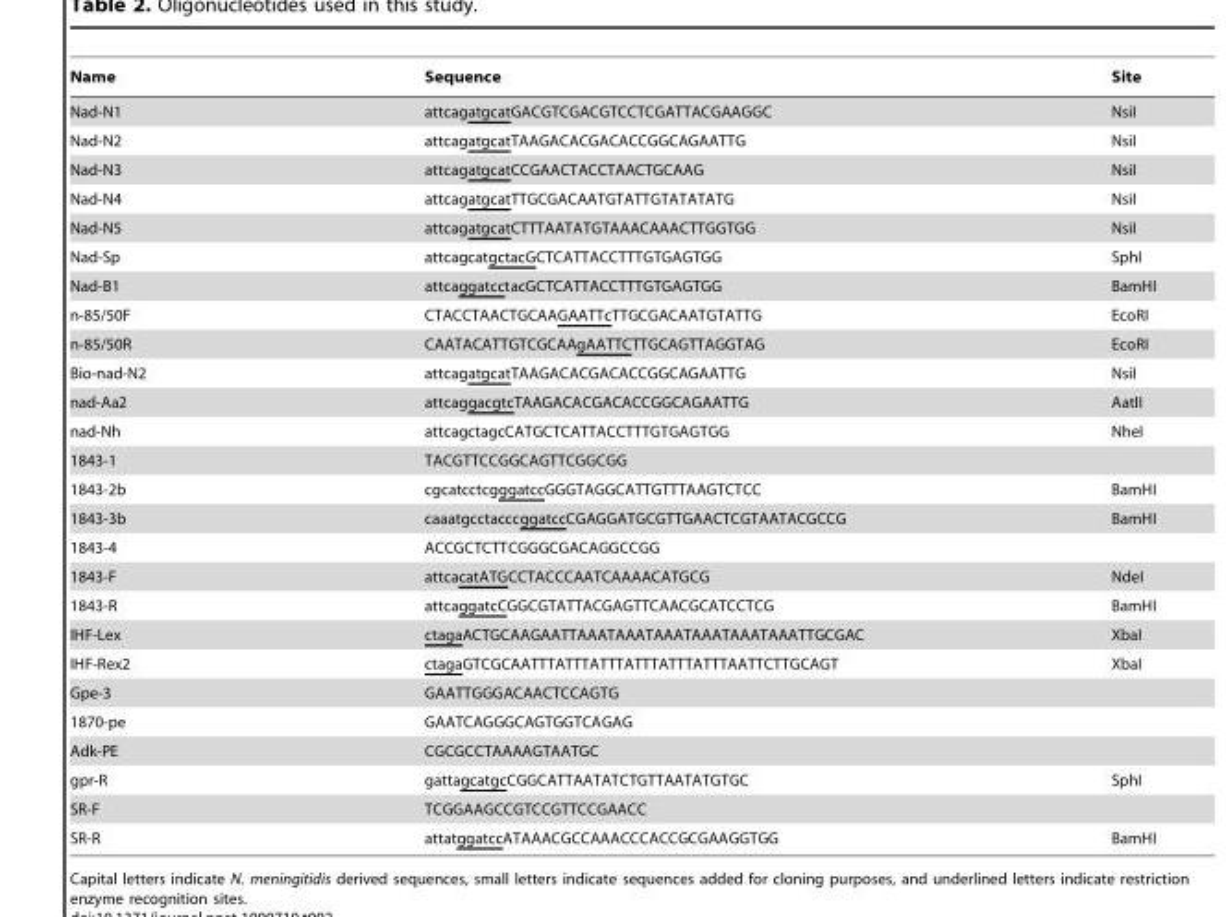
<table><thead><tr><td>Name</td><td>Sequence</td><td>Site</td></tr></thead><tbody><tr><td>Nad-N1</td><td>attcagatgcatGACGTCGACGTCCTCGATTACGAAGGC</td><td>NsiI</td></tr><tr><td>Nad-N2</td><td>attcagatgcatTAAGACACGACACCGGCAGAATTG</td><td>NsiI</td></tr><tr><td>Nad-N3</td><td>attcagatgcatCCGAACTACCTAACTGCAAG</td><td>NsiI</td></tr><tr><td>Nad-N4</td><td>attcagatgcatTTGCGACAATGTATTGTATATATG</td><td>NsiI</td></tr><tr><td>Nad-N5</td><td>attcagatgcatCTTTAATATGTAAACAAACTTGGTGG</td><td>NsiI</td></tr><tr><td>Nad-Sp</td><td>attcagcatgctacGCTCATTACCTTTGTGAGTGG</td><td>SphI</td></tr><tr><td>Nad-B1</td><td>attcaggatcctacGCTCATTACCTTTGTGAGTGG</td><td>BamHI</td></tr><tr><td>n-85/50F</td><td>CTACCTAACTGCAAGAATTcTTGCGACAATGTATTG</td><td>EcoRI</td></tr><tr><td>n-85/50R</td><td>CAATACATTGTCGCAAgAATTCTTGCAGTTAGGTAG</td><td>EcoRI</td></tr><tr><td>Bio-nad-N2</td><td>attcagatgcatTAAGACACGACACCGGCAGAATTG</td><td>NsiI</td></tr><tr><td>nad-Aa2</td><td>attcaggacgtcTAAGACACGACACCGGCAGAATTG</td><td>AatII</td></tr><tr><td>nad-Nh</td><td>attcagctagcCATGCTCATTACCTTTGTGAGTGG</td><td>NheI</td></tr><tr><td>1843-1</td><td>TACGTTCCGGCAGTTCGGCGG</td><td></td></tr><tr><td>1843-2b</td><td>cgcatcctcgggatccGGGTAGGCATTGTTTAAGTCTCC</td><td>BamHI</td></tr><tr><td>1843-3b</td><td>caaatgcctacccggatccCGAGGATGCGTTGAACTCGTAATACGCCG</td><td>BamHI</td></tr><tr><td>1843-4</td><td>ACCGCTCTTCGGGCGACAGGCCGG</td><td></td></tr><tr><td>1843-F</td><td>attcacatATGCCTACCCAATCAAAACATGCG</td><td>NdeI</td></tr><tr><td>1843-R</td><td>attcaggatcCGGCGTATTACGAGTTCAACGCATCCTCG</td><td>BamHI</td></tr><tr><td>IHF-Lex</td><td>ctagaACTGCAAGAATTAAATAAATAAATAAATAAATAAATTGCGAC</td><td>XbaI</td></tr><tr><td>IHF-Rex2</td><td>ctagaGTCGCAATTTATTTATTTATTTATTTATTTAATTCTTGCAGT</td><td>XbaI</td></tr><tr><td>Gpe-3</td><td>GAATTGGGACAACTCCAGTG</td><td></td></tr><tr><td>1870-pe</td><td>GAATCAGGGCAGTGGTCAGAG</td><td></td></tr><tr><td>Adk-PE</td><td>CGCGCCTAAAAGTAATGC</td><td></td></tr><tr><td>gpr-R</td><td>gattagcatgcCGGCATTAATATCTGTTAATATGTGC</td><td>SphI</td></tr><tr><td>SR-F</td><td>TCGGAAGCCGTCCGTTCCGAACC</td><td></td></tr><tr><td>SR-R</td><td>attatggatccATAAACGCCAAACCCACCGCGAAGGTGG</td><td>BamHI</td></tr></tbody></table>